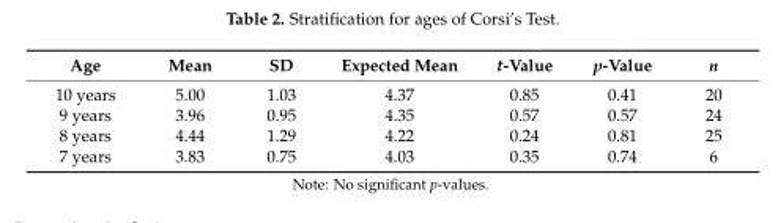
<table><thead><tr><td>Age</td><td>Mean</td><td>SD</td><td>Expected Mean</td><td>t-Value</td><td>p-Value</td><td>n</td></tr></thead><tbody><tr><td>10 years</td><td>5.00</td><td>1.03</td><td>4.37</td><td>0.85</td><td>0.41</td><td>20</td></tr><tr><td>9 years</td><td>3.96</td><td>0.95</td><td>4.35</td><td>0.57</td><td>0.57</td><td>24</td></tr><tr><td>8 years</td><td>4.44</td><td>1.29</td><td>4.22</td><td>0.24</td><td>0.81</td><td>25</td></tr><tr><td>7 years</td><td>3.83</td><td>0.75</td><td>4.03</td><td>0.35</td><td>0.74</td><td>6</td></tr></tbody></table>